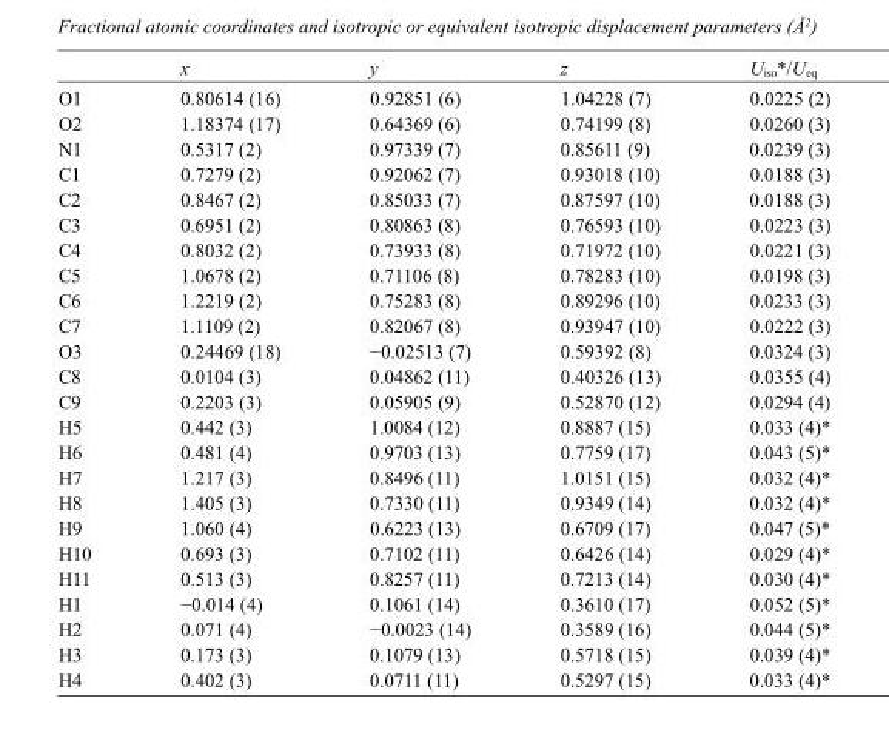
<table><thead><tr><td></td><td>x</td><td>y</td><td>z</td><td>U<sub>iso</sub>*/U<sub>eq</sub></td></tr></thead><tbody><tr><td>O1</td><td>0.80614 (16)</td><td>0.92851 (6)</td><td>1.04228 (7)</td><td>0.0225 (2)</td></tr><tr><td>O2</td><td>1.18374 (17)</td><td>0.64369 (6)</td><td>0.74199 (8)</td><td>0.0260 (3)</td></tr><tr><td>N1</td><td>0.5317 (2)</td><td>0.97339 (7)</td><td>0.85611 (9)</td><td>0.0239 (3)</td></tr><tr><td>C1</td><td>0.7279 (2)</td><td>0.92062 (7)</td><td>0.93018 (10)</td><td>0.0188 (3)</td></tr><tr><td>C2</td><td>0.8467 (2)</td><td>0.85033 (7)</td><td>0.87597 (10)</td><td>0.0188 (3)</td></tr><tr><td>C3</td><td>0.6951 (2)</td><td>0.80863 (8)</td><td>0.76593 (10)</td><td>0.0223 (3)</td></tr><tr><td>C4</td><td>0.8032 (2)</td><td>0.73933 (8)</td><td>0.71972 (10)</td><td>0.0221 (3)</td></tr><tr><td>C5</td><td>1.0678 (2)</td><td>0.71106 (8)</td><td>0.78283 (10)</td><td>0.0198 (3)</td></tr><tr><td>C6</td><td>1.2219 (2)</td><td>0.75283 (8)</td><td>0.89296 (10)</td><td>0.0233 (3)</td></tr><tr><td>C7</td><td>1.1109 (2)</td><td>0.82067 (8)</td><td>0.93947 (10)</td><td>0.0222 (3)</td></tr><tr><td>O3</td><td>0.24469 (18)</td><td>−0.02513 (7)</td><td>0.59392 (8)</td><td>0.0324 (3)</td></tr><tr><td>C8</td><td>0.0104 (3)</td><td>0.04862 (11)</td><td>0.40326 (13)</td><td>0.0355 (4)</td></tr><tr><td>C9</td><td>0.2203 (3)</td><td>0.05905 (9)</td><td>0.52870 (12)</td><td>0.0294 (4)</td></tr><tr><td>H5</td><td>0.442 (3)</td><td>1.0084 (12)</td><td>0.8887 (15)</td><td>0.033 (4)*</td></tr><tr><td>H6</td><td>0.481 (4)</td><td>0.9703 (13)</td><td>0.7759 (17)</td><td>0.043 (5)*</td></tr><tr><td>H7</td><td>1.217 (3)</td><td>0.8496 (11)</td><td>1.0151 (15)</td><td>0.032 (4)*</td></tr><tr><td>H8</td><td>1.405 (3)</td><td>0.7330 (11)</td><td>0.9349 (14)</td><td>0.032 (4)*</td></tr><tr><td>H9</td><td>1.060 (4)</td><td>0.6223 (13)</td><td>0.6709 (17)</td><td>0.047 (5)*</td></tr><tr><td>H10</td><td>0.693 (3)</td><td>0.7102 (11)</td><td>0.6426 (14)</td><td>0.029 (4)*</td></tr><tr><td>H11</td><td>0.513 (3)</td><td>0.8257 (11)</td><td>0.7213 (14)</td><td>0.030 (4)*</td></tr><tr><td>H1</td><td>−0.014 (4)</td><td>0.1061 (14)</td><td>0.3610 (17)</td><td>0.052 (5)*</td></tr><tr><td>H2</td><td>0.071 (4)</td><td>−0.0023 (14)</td><td>0.3589 (16)</td><td>0.044 (5)*</td></tr><tr><td>H3</td><td>0.173 (3)</td><td>0.1079 (13)</td><td>0.5718 (15)</td><td>0.039 (4)*</td></tr><tr><td>H4</td><td>0.402 (3)</td><td>0.0711 (11)</td><td>0.5297 (15)</td><td>0.033 (4)*</td></tr></tbody></table>